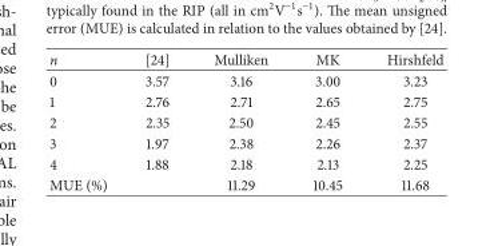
<table><thead><tr><td>n</td><td>[24]</td><td>Mulliken</td><td>MK</td><td>Hirshfeld</td></tr></thead><tbody><tr><td>0</td><td>3.57</td><td>3.16</td><td>3.00</td><td>3.23</td></tr><tr><td>1</td><td>2.76</td><td>2.71</td><td>2.65</td><td>2.75</td></tr><tr><td>2</td><td>2.35</td><td>2.50</td><td>2.45</td><td>2.55</td></tr><tr><td>3</td><td>1.97</td><td>2.38</td><td>2.26</td><td>2.37</td></tr><tr><td>4</td><td>1.88</td><td>2.18</td><td>2.13</td><td>2.25</td></tr><tr><td>MUE (%)</td><td></td><td>11.29</td><td>10.45</td><td>11.68</td></tr></tbody></table>